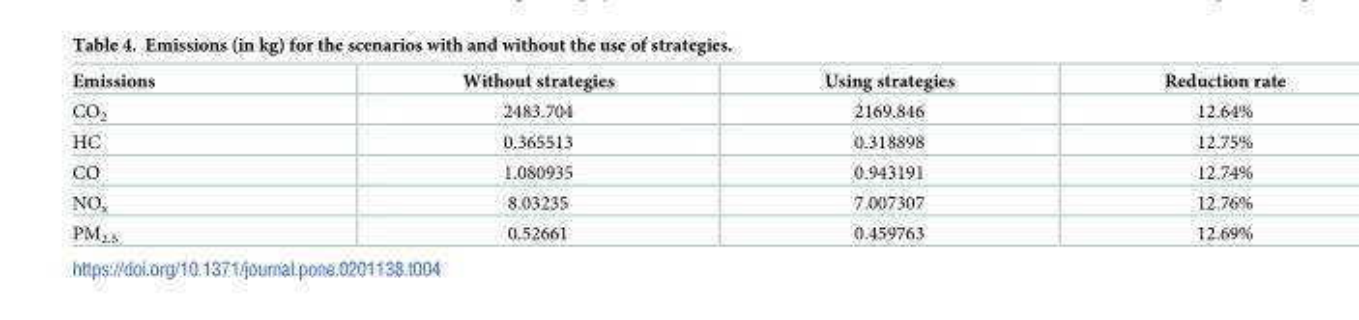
<table><thead><tr><td>Emissions</td><td>Without strategies</td><td>Using strategies</td><td>Reduction rate</td></tr></thead><tbody><tr><td>CO<sub>2</sub></td><td>2483.704</td><td>2169.846</td><td>12.64%</td></tr><tr><td>HC</td><td>0.365513</td><td>0.318898</td><td>12.75%</td></tr><tr><td>CO</td><td>1.080935</td><td>0.943191</td><td>12.74%</td></tr><tr><td>NO<sub>x</sub></td><td>8.03235</td><td>7.007307</td><td>12.76%</td></tr><tr><td>PM<sub>2.5</sub></td><td>0.52661</td><td>0.459763</td><td>12.69%</td></tr></tbody></table>